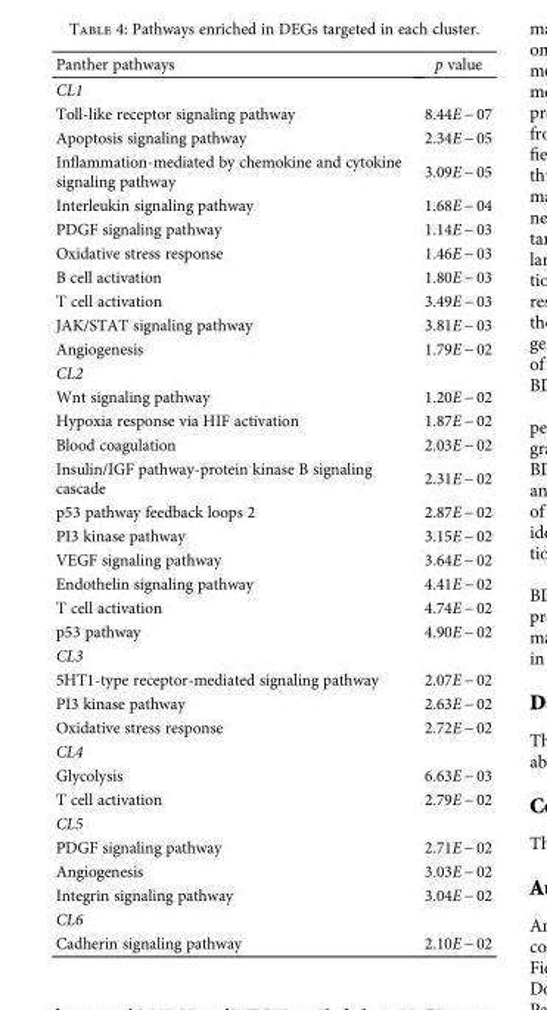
<table><thead><tr><td>Panther pathways</td><td>p value</td></tr></thead><tbody><tr><td colspan="2">CL1</td></tr><tr><td>Toll-like receptor signaling pathway</td><td>8.44E − 07</td></tr><tr><td>Apoptosis signaling pathway</td><td>2.34E − 05</td></tr><tr><td>Inflammation-mediated by chemokine and cytokine signaling pathway</td><td>3.09E − 05</td></tr><tr><td>Interleukin signaling pathway</td><td>1.68E − 04</td></tr><tr><td>PDGF signaling pathway</td><td>1.14E − 03</td></tr><tr><td>Oxidative stress response</td><td>1.46E − 03</td></tr><tr><td>B cell activation</td><td>1.80E − 03</td></tr><tr><td>T cell activation</td><td>3.49E − 03</td></tr><tr><td>JAK/STAT signaling pathway</td><td>3.81E − 03</td></tr><tr><td>Angiogenesis</td><td>1.79E − 02</td></tr><tr><td colspan="2">CL2</td></tr><tr><td>Wnt signaling pathway</td><td>1.20E − 02</td></tr><tr><td>Hypoxia response via HIF activation</td><td>1.87E − 02</td></tr><tr><td>Blood coagulation</td><td>2.03E − 02</td></tr><tr><td>Insulin/IGF pathway-protein kinase B signaling cascade</td><td>2.31E − 02</td></tr><tr><td>p53 pathway feedback loops 2</td><td>2.87E − 02</td></tr><tr><td>PI3 kinase pathway</td><td>3.15E − 02</td></tr><tr><td>VEGF signaling pathway</td><td>3.64E − 02</td></tr><tr><td>Endothelin signaling pathway</td><td>4.41E − 02</td></tr><tr><td>T cell activation</td><td>4.74E − 02</td></tr><tr><td>p53 pathway</td><td>4.90E − 02</td></tr><tr><td colspan="2">CL3</td></tr><tr><td>5HT1-type receptor-mediated signaling pathway</td><td>2.07E − 02</td></tr><tr><td>PI3 kinase pathway</td><td>2.63E − 02</td></tr><tr><td>Oxidative stress response</td><td>2.72E − 02</td></tr><tr><td colspan="2">CL4</td></tr><tr><td>Glycolysis</td><td>6.63E − 03</td></tr><tr><td>T cell activation</td><td>2.79E − 02</td></tr><tr><td colspan="2">CL5</td></tr><tr><td>PDGF signaling pathway</td><td>2.71E − 02</td></tr><tr><td>Angiogenesis</td><td>3.03E − 02</td></tr><tr><td>Integrin signaling pathway</td><td>3.04E − 02</td></tr><tr><td colspan="2">CL6</td></tr><tr><td>Cadherin signaling pathway</td><td>2.10E − 02</td></tr></tbody></table>